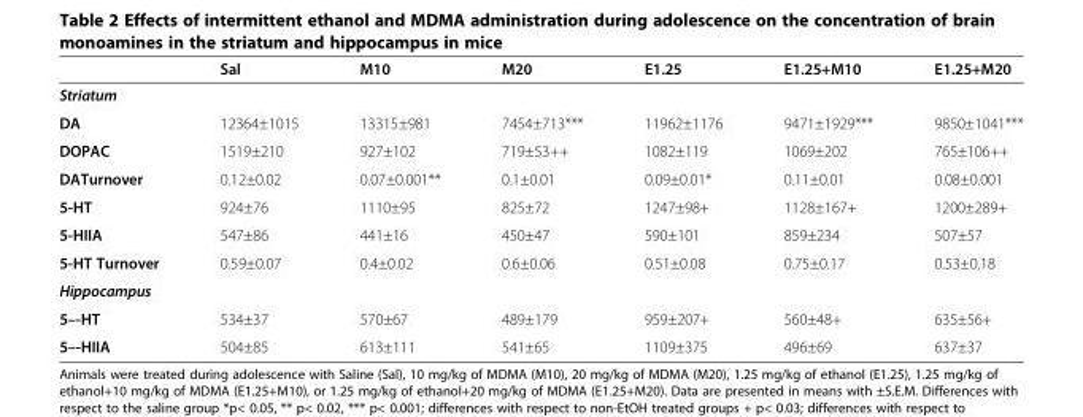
<table><thead><tr><td></td><td>Sal</td><td>M10</td><td>M20</td><td>E1.25</td><td>E1.25+M10</td><td>E1.25+M20</td></tr></thead><tbody><tr><td colspan="7">Striatum</td></tr><tr><td>DA</td><td>12364±1015</td><td>13315±981</td><td>7454±713***</td><td>11962±1176</td><td>9471±1929***</td><td>9850±1041***</td></tr><tr><td>DOPAC</td><td>1519±210</td><td>927±102</td><td>719±53++</td><td>1082±119</td><td>1069±202</td><td>765±106++</td></tr><tr><td>DATurnover</td><td>0.12±0.02</td><td>0.07±0.001**</td><td>0.1±0.01</td><td>0.09±0.01*</td><td>0.11±0.01</td><td>0.08±0.001</td></tr><tr><td>5-HT</td><td>924±76</td><td>1110±95</td><td>825±72</td><td>1247±98+</td><td>1128±167+</td><td>1200±289+</td></tr><tr><td>5-HIIA</td><td>547±86</td><td>441±16</td><td>450±47</td><td>590±101</td><td>859±234</td><td>507±57</td></tr><tr><td>5-HT Turnover</td><td>0.59±0.07</td><td>0.4±0.02</td><td>0.6±0.06</td><td>0.51±0.08</td><td>0.75±0.17</td><td>0.53±0.18</td></tr><tr><td colspan="7">Hippocampus</td></tr><tr><td>5–-HT</td><td>534±37</td><td>570±67</td><td>489±179</td><td>959±207+</td><td>560±48+</td><td>635±56+</td></tr><tr><td>5–-HIIA</td><td>504±85</td><td>613±111</td><td>541±65</td><td>1109±375</td><td>496±69</td><td>637±37</td></tr></tbody></table>